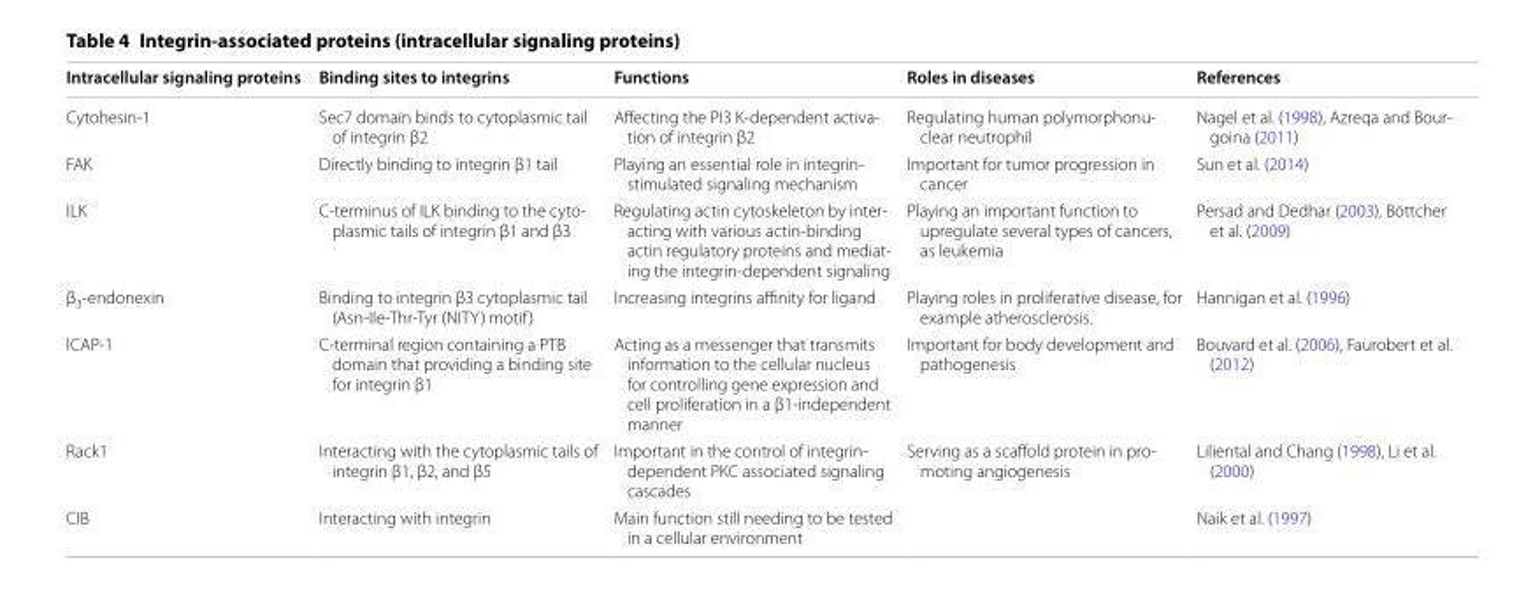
<table><thead><tr><td>Intracellular signaling proteins</td><td>Binding sites to integrins</td><td>Functions</td><td>Roles in diseases</td><td>References</td></tr></thead><tbody><tr><td>Cytohesin-1</td><td>Sec7 domain binds to cytoplasmic tail of integrin β2</td><td>Affecting the PI3 K-dependent activa- tion of integrin β2</td><td>Regulating human polymorphonu- clear neutrophil</td><td>Nagel et al. (1998), Azreqa and Bour- goina (2011)</td></tr><tr><td>FAK</td><td>Directly binding to integrin β1 tail</td><td>Playing an essential role in integrin- stimulated signaling mechanism</td><td>Important for tumor progression in cancer</td><td>Sun et al. (2014)</td></tr><tr><td>ILK</td><td>C-terminus of ILK binding to the cyto- plasmic tails of integrin β1 and β3</td><td>Regulating actin cytoskeleton by inter- acting with various actin-binding actin regulatory proteins and mediat- ing the integrin-dependent signaling</td><td>Playing an important function to upregulate several types of cancers, as leukemia</td><td>Persad and Dedhar (2003), Böttcher et al. (2009)</td></tr><tr><td>β<sub>3</sub>-endonexin</td><td>Binding to integrin β3 cytoplasmic tail (Asn-IIe-Thr-Tyr (NITY) motif)</td><td>Increasing integrins affinity for ligand</td><td>Playing roles in proliferative disease, for example atherosclerosis.</td><td>Hannigan et al. (1996)</td></tr><tr><td>ICAP-1</td><td>C-terminal region containing a PTB domain that providing a binding site for integrin β1</td><td>Acting as a messenger that transmits information to the cellular nucleus for controlling gene expression and cell proliferation in a β1-independent manner</td><td>Important for body development and pathogenesis</td><td>Bouvard et al. (2006), Faurobert et al. (2012)</td></tr><tr><td>Rack1</td><td>Interacting with the cytoplasmic tails of integrin β1, β2, and β5</td><td>Important in the control of integrin- dependent PKC associated signaling cascades</td><td>Serving as a scaffold protein in pro- moting angiogenesis</td><td>Liliental and Chang (1998), Li et al. (2000)</td></tr><tr><td>CIB</td><td>Interacting with integrin</td><td>Main function still needing to be tested in a cellular environment</td><td></td><td>Naik et al. (1997)</td></tr></tbody></table>